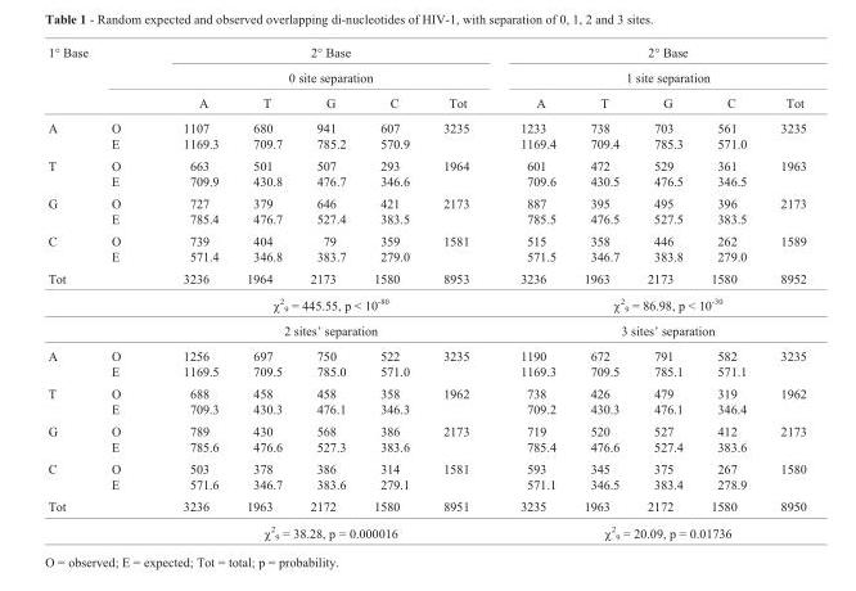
<table><thead><tr><td rowspan="3">1° Base</td><td rowspan="3"></td><td rowspan="2" colspan="5">2° Base 0 site separation</td><td rowspan="2" colspan="5">2° Base 1 site separation</td></tr><tr></tr><tr><td>A</td><td>T</td><td>G</td><td>C</td><td>Tot</td><td>A</td><td>T</td><td>G</td><td>C</td><td>Tot</td></tr></thead><tbody><tr><td>A</td><td>O E</td><td>1107 1169.3</td><td>680 709.7</td><td>941 785.2</td><td>607 570.9</td><td>3235</td><td>1233 1169.4</td><td>738 709.4</td><td>703 785.3</td><td>561 571.0</td><td>3235</td></tr><tr><td>T</td><td>O E</td><td>663 709.9</td><td>501 430.8</td><td>507 476.7</td><td>293 346.6</td><td>1964</td><td>601 709.6</td><td>472 430.5</td><td>529 476.5</td><td>361 346.5</td><td>1963</td></tr><tr><td>G</td><td>O E</td><td>727 785.4</td><td>379 476.7</td><td>646 527.4</td><td>421 383.5</td><td>2173</td><td>887 785.5</td><td>395 476.5</td><td>495 527.5</td><td>396 383.5</td><td>2173</td></tr><tr><td>C</td><td>O E</td><td>739 571.4</td><td>404 346.8</td><td>79 383.7</td><td>359 279.0</td><td>1581</td><td>515 571.5</td><td>358 346.7</td><td>446 383.8</td><td>262 279.0</td><td>1589</td></tr><tr><td rowspan="3">Tot</td><td></td><td>3236</td><td>1964</td><td>2173</td><td>1580</td><td>8953</td><td>3236</td><td>1963</td><td>2173</td><td>1580</td><td>8952</td></tr><tr><td></td><td colspan="5">χ<sup>2</sup> <sub>9</sub> = 445.55, p &lt; 10<sup>-80</sup></td><td colspan="5">χ<sup>2</sup> <sub>9</sub> = 86.98, p &lt; 10<sup>-30</sup></td></tr><tr><td></td><td colspan="5">2 sites’ separation</td><td colspan="5">3 sites’ separation</td></tr><tr><td>A</td><td>O E</td><td>1256 1169.5</td><td>697 709.5</td><td>750 785.0</td><td>522 571.0</td><td>3235</td><td>1190 1169.3</td><td>672 709.5</td><td>791 785.1</td><td>582 571.1</td><td>3235</td></tr><tr><td>T</td><td>O E</td><td>688 709.3</td><td>458 430.3</td><td>458 476.1</td><td>358 346.3</td><td>1962</td><td>738 709.2</td><td>426 430.3</td><td>479 476.1</td><td>319 346.4</td><td>1962</td></tr><tr><td>G</td><td>O E</td><td>789 785.6</td><td>430 476.6</td><td>568 527.3</td><td>386 383.6</td><td>2173</td><td>719 785.4</td><td>520 476.6</td><td>527 527.4</td><td>412 383.6</td><td>2173</td></tr><tr><td>C</td><td>O E</td><td>503 571.6</td><td>378 346.7</td><td>386 383.6</td><td>314 279.1</td><td>1581</td><td>593 571.1</td><td>345 346.5</td><td>375 383.4</td><td>267 278.9</td><td>1580</td></tr><tr><td rowspan="2">Tot</td><td></td><td>3236</td><td>1963</td><td>2172</td><td>1580</td><td>8951</td><td>3235</td><td>1963</td><td>2172</td><td>1580</td><td>8950</td></tr><tr><td></td><td colspan="5">χ<sup>2</sup> <sub>9</sub> = 38.28, p = 0.000016</td><td colspan="5">χ<sup>2</sup> <sub>9</sub> = 20.09, p = 0.01736</td></tr></tbody></table>